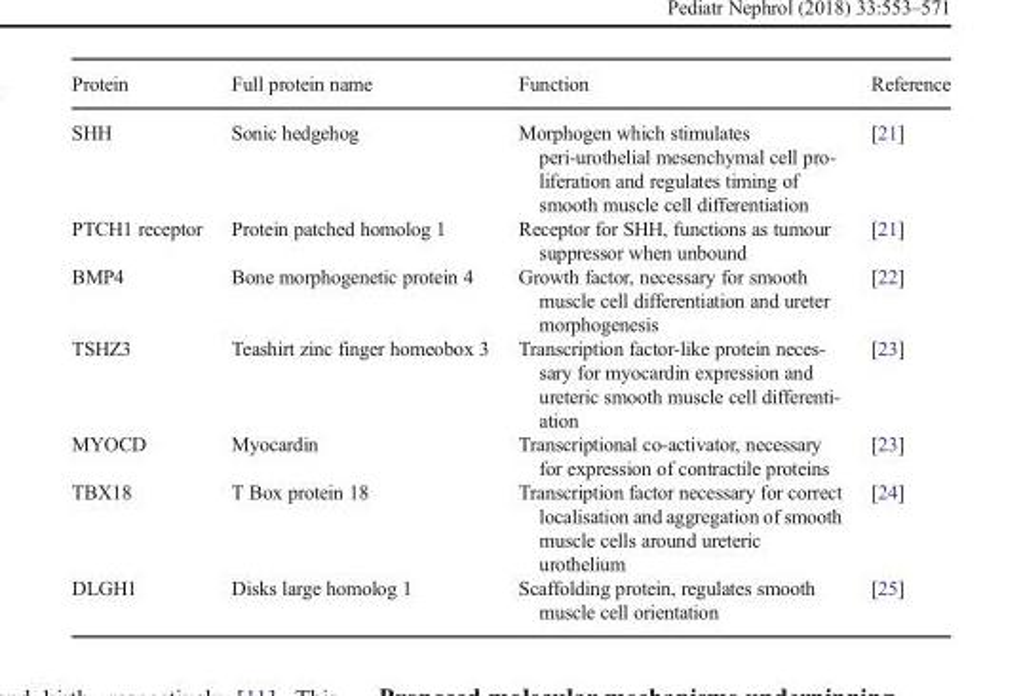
<table><thead><tr><td>Protein</td><td>Full protein name</td><td>Function</td><td>Reference</td></tr></thead><tbody><tr><td>SHH</td><td>Sonic hedgehog</td><td>Morphogen which stimulates peri-urothelial mesenchymal cell pro- liferation and regulates timing of smooth muscle cell differentiation</td><td>[21]</td></tr><tr><td>PTCH1 receptor</td><td>Protein patched homolog 1</td><td>Receptor for SHH, functions as tumour suppressor when unbound</td><td>[21]</td></tr><tr><td>BMP4</td><td>Bone morphogenetic protein 4</td><td>Growth factor, necessary for smooth muscle cell differentiation and ureter morphogenesis</td><td>[22]</td></tr><tr><td>TSHZ3</td><td>Teashirt zinc finger homeobox 3</td><td>Transcription factor-like protein neces- sary for myocardin expression and ureteric smooth muscle cell differenti- ation</td><td>[23]</td></tr><tr><td>MYOCD</td><td>Myocardin</td><td>Transcriptional co-activator, necessary for expression of contractile proteins</td><td>[23]</td></tr><tr><td>TBX18</td><td>T Box protein 18</td><td>Transcription factor necessary for correct localisation and aggregation of smooth muscle cells around ureteric urothelium</td><td>[24]</td></tr><tr><td>DLGH1</td><td>Disks large homolog 1</td><td>Scaffolding protein, regulates smooth muscle cell orientation</td><td>[25]</td></tr></tbody></table>